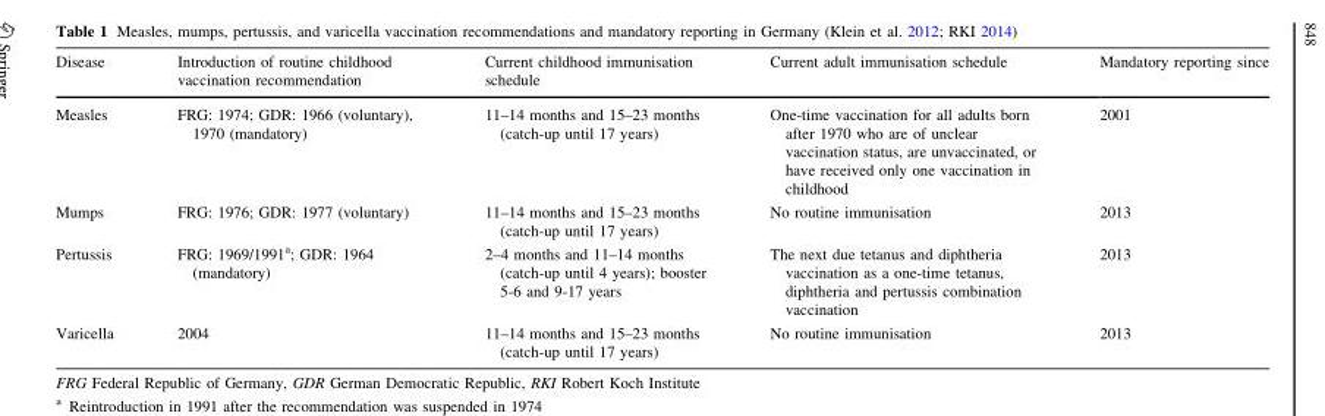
<table><thead><tr><td>Disease</td><td>Introduction of routine childhood vaccination recommendation</td><td>Current childhood immunisation schedule</td><td>Current adult immunisation schedule</td><td>Mandatory reporting since</td></tr></thead><tbody><tr><td>Measles</td><td>FRG: 1974; GDR: 1966 (voluntary), 1970 (mandatory)</td><td>11–14 months and 15–23 months (catch-up until 17 years)</td><td>One-time vaccination for all adults born after 1970 who are of unclear vaccination status, are unvaccinated, or have received only one vaccination in childhood</td><td>2001</td></tr><tr><td>Mumps</td><td>FRG: 1976; GDR: 1977 (voluntary)</td><td>11–14 months and 15–23 months (catch-up until 17 years)</td><td>No routine immunisation</td><td>2013</td></tr><tr><td>Pertussis</td><td>FRG: 1969/1991<sup>a</sup>; GDR: 1964 (mandatory)</td><td>2–4 months and 11–14 months (catch-up until 4 years); booster 5-6 and 9-17 years</td><td>The next due tetanus and diphtheria vaccination as a one-time tetanus, diphtheria and pertussis combination vaccination</td><td>2013</td></tr><tr><td>Varicella</td><td>2004</td><td>11–14 months and 15–23 months (catch-up until 17 years)</td><td>No routine immunisation</td><td>2013</td></tr></tbody></table>